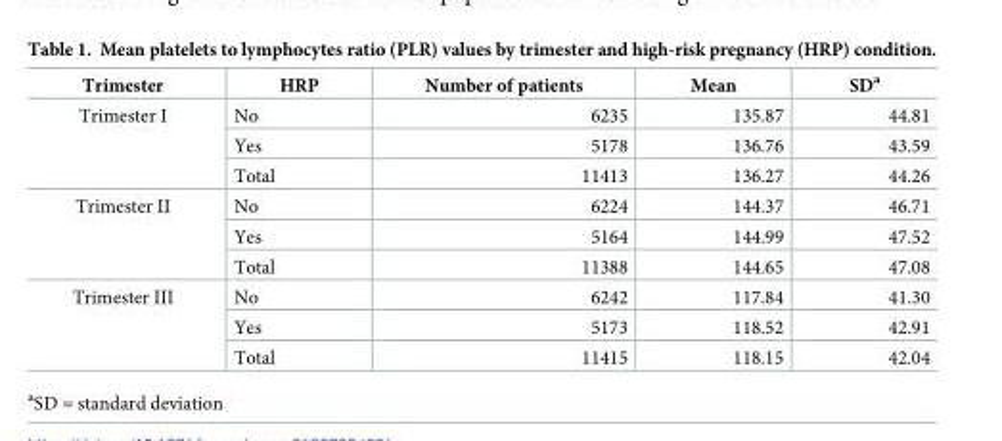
<table><thead><tr><td>Trimester</td><td>HRP</td><td>Number of patients</td><td>Mean</td><td>SD<sup>a</sup></td></tr></thead><tbody><tr><td rowspan="3">Trimester I</td><td>No</td><td>6235</td><td>135.87</td><td>44.81</td></tr><tr><td>Yes</td><td>5178</td><td>136.76</td><td>43.59</td></tr><tr><td>Total</td><td>11413</td><td>136.27</td><td>44.26</td></tr><tr><td rowspan="3">Trimester II</td><td>No</td><td>6224</td><td>144.37</td><td>46.71</td></tr><tr><td>Yes</td><td>5164</td><td>144.99</td><td>47.52</td></tr><tr><td>Total</td><td>11388</td><td>144.65</td><td>47.08</td></tr><tr><td rowspan="3">Trimester III</td><td>No</td><td>6242</td><td>117.84</td><td>41.30</td></tr><tr><td>Yes</td><td>5173</td><td>118.52</td><td>42.91</td></tr><tr><td>Total</td><td>11415</td><td>118.15</td><td>42.04</td></tr></tbody></table>